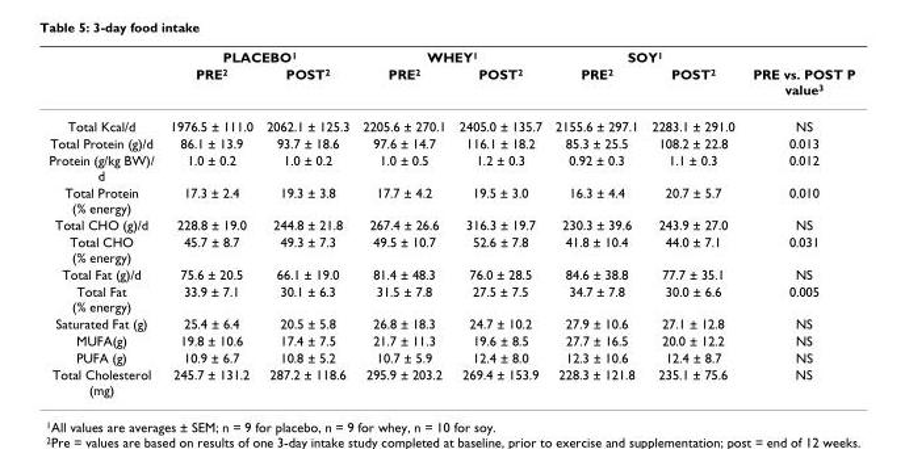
<table><thead><tr><td rowspan="2"></td><td colspan="2">PLACEBO<sup>1</sup></td><td colspan="2">WHEY<sup>1</sup></td><td colspan="2">SOY<sup>1</sup></td><td rowspan="2">PRE vs. POST P value<sup>3</sup></td></tr><tr><td>PRE<sup>2</sup></td><td>POST<sup>2</sup></td><td>PRE<sup>2</sup></td><td>POST<sup>2</sup></td><td>PRE<sup>2</sup></td><td>POST<sup>2</sup></td></tr></thead><tbody><tr><td>Total Kcal/d</td><td>1976.5 ± 111.0</td><td>2062.1 ± 125.3</td><td>2205.6 ± 270.1</td><td>2405.0 ± 135.7</td><td>2155.6 ± 297.1</td><td>2283.1 ± 291.0</td><td>NS</td></tr><tr><td>Total Protein (g)/d</td><td>86.1 ± 13.9</td><td>93.7 ± 18.6</td><td>97.6 ± 14.7</td><td>116.1 ± 18.2</td><td>85.3 ± 25.5</td><td>108.2 ± 22.8</td><td>0.013</td></tr><tr><td>Protein (g/kg BW)/ d</td><td>1.0 ± 0.2</td><td>1.0 ± 0.2</td><td>1.0 ± 0.5</td><td>1.2 ± 0.3</td><td>0.92 ± 0.3</td><td>1.1 ± 0.3</td><td>0.012</td></tr><tr><td>Total Protein (% energy)</td><td>17.3 ± 2.4</td><td>19.3 ± 3.8</td><td>17.7 ± 4.2</td><td>19.5 ± 3.0</td><td>16.3 ± 4.4</td><td>20.7 ± 5.7</td><td>0.010</td></tr><tr><td>Total CHO (g)/d</td><td>228.8 ± 19.0</td><td>244.8 ± 21.8</td><td>267.4 ± 26.6</td><td>316.3 ± 19.7</td><td>230.3 ± 39.6</td><td>243.9 ± 27.0</td><td>NS</td></tr><tr><td>Total CHO (% energy)</td><td>45.7 ± 8.7</td><td>49.3 ± 7.3</td><td>49.5 ± 10.7</td><td>52.6 ± 7.8</td><td>41.8 ± 10.4</td><td>44.0 ± 7.1</td><td>0.031</td></tr><tr><td>Total Fat (g)/d</td><td>75.6 ± 20.5</td><td>66.1 ± 19.0</td><td>81.4 ± 48.3</td><td>76.0 ± 28.5</td><td>84.6 ± 38.8</td><td>77.7 ± 35.1</td><td>NS</td></tr><tr><td>Total Fat (% energy)</td><td>33.9 ± 7.1</td><td>30.1 ± 6.3</td><td>31.5 ± 7.8</td><td>27.5 ± 7.5</td><td>34.7 ± 7.8</td><td>30.0 ± 6.6</td><td>0.005</td></tr><tr><td>Saturated Fat (g)</td><td>25.4 ± 6.4</td><td>20.5 ± 5.8</td><td>26.8 ± 18.3</td><td>24.7 ± 10.2</td><td>27.9 ± 10.6</td><td>27.1 ± 12.8</td><td>NS</td></tr><tr><td>MUFA(g)</td><td>19.8 ± 10.6</td><td>17.4 ± 7.5</td><td>21.7 ± 11.3</td><td>19.6 ± 8.5</td><td>27.7 ± 16.5</td><td>20.0 ± 12.2</td><td>NS</td></tr><tr><td>PUFA (g)</td><td>10.9 ± 6.7</td><td>10.8 ± 5.2</td><td>10.7 ± 5.9</td><td>12.4 ± 8.0</td><td>12.3 ± 10.6</td><td>12.4 ± 8.7</td><td>NS</td></tr><tr><td>Total Cholesterol (mg)</td><td>245.7 ± 131.2</td><td>287.2 ± 118.6</td><td>295.9 ± 203.2</td><td>269.4 ± 153.9</td><td>228.3 ± 121.8</td><td>235.1 ± 75.6</td><td>NS</td></tr></tbody></table>